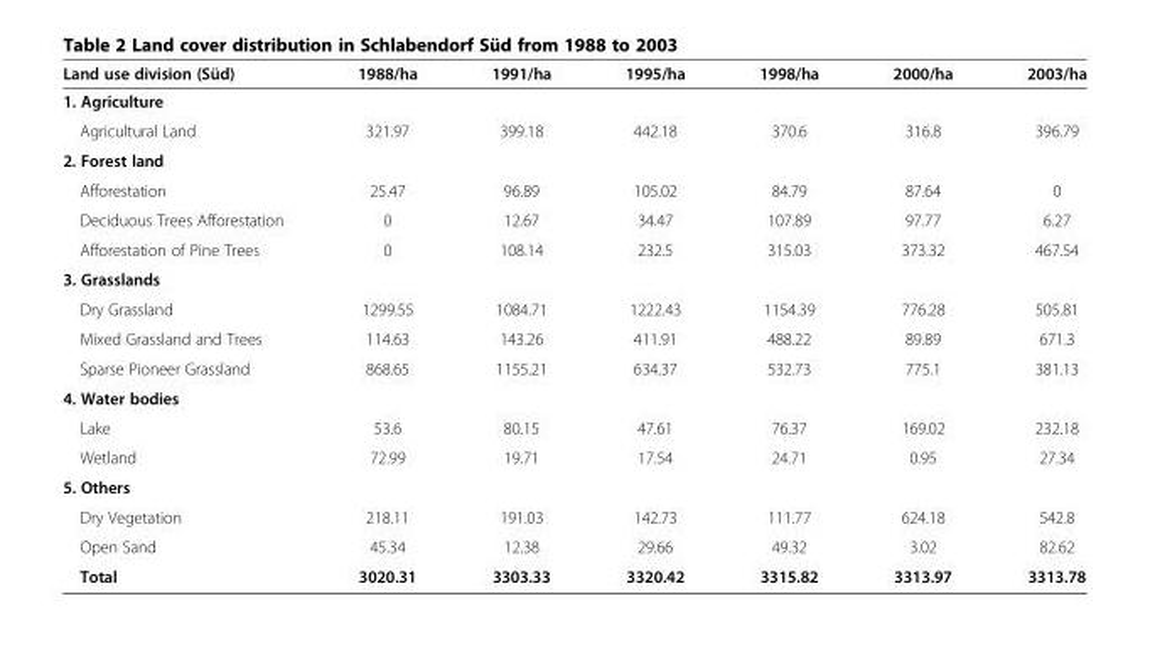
<table><thead><tr><td>Land use division (Süd)</td><td>1988/ha</td><td>1991/ha</td><td>1995/ha</td><td>1998/ha</td><td>2000/ha</td><td>2003/ha</td></tr></thead><tbody><tr><td colspan="7">1. Agriculture</td></tr><tr><td>Agricultural Land</td><td>321.97</td><td>399.18</td><td>442.18</td><td>370.6</td><td>316.8</td><td>396.79</td></tr><tr><td colspan="7">2. Forest land</td></tr><tr><td>Afforestation</td><td>25.47</td><td>96.89</td><td>105.02</td><td>84.79</td><td>87.64</td><td>0</td></tr><tr><td>Deciduous Trees Afforestation</td><td>0</td><td>12.67</td><td>34.47</td><td>107.89</td><td>97.77</td><td>6.27</td></tr><tr><td>Afforestation of Pine Trees</td><td>0</td><td>108.14</td><td>232.5</td><td>315.03</td><td>373.32</td><td>467.54</td></tr><tr><td colspan="7">3. Grasslands</td></tr><tr><td>Dry Grassland</td><td>1299.55</td><td>1084.71</td><td>1222.43</td><td>1154.39</td><td>776.28</td><td>505.81</td></tr><tr><td>Mixed Grassland and Trees</td><td>114.63</td><td>143.26</td><td>411.91</td><td>488.22</td><td>89.89</td><td>671.3</td></tr><tr><td>Sparse Pioneer Grassland</td><td>868.65</td><td>1155.21</td><td>634.37</td><td>532.73</td><td>775.1</td><td>381.13</td></tr><tr><td colspan="7">4. Water bodies</td></tr><tr><td>Lake</td><td>53.6</td><td>80.15</td><td>47.61</td><td>76.37</td><td>169.02</td><td>232.18</td></tr><tr><td>Wetland</td><td>72.99</td><td>19.71</td><td>17.54</td><td>24.71</td><td>0.95</td><td>27.34</td></tr><tr><td colspan="7">5. Others</td></tr><tr><td>Dry Vegetation</td><td>218.11</td><td>191.03</td><td>142.73</td><td>111.77</td><td>624.18</td><td>542.8</td></tr><tr><td>Open Sand</td><td>45.34</td><td>12.38</td><td>29.66</td><td>49.32</td><td>3.02</td><td>82.62</td></tr><tr><td>Total</td><td>3020.31</td><td>3303.33</td><td>3320.42</td><td>3315.82</td><td>3313.97</td><td>3313.78</td></tr></tbody></table>